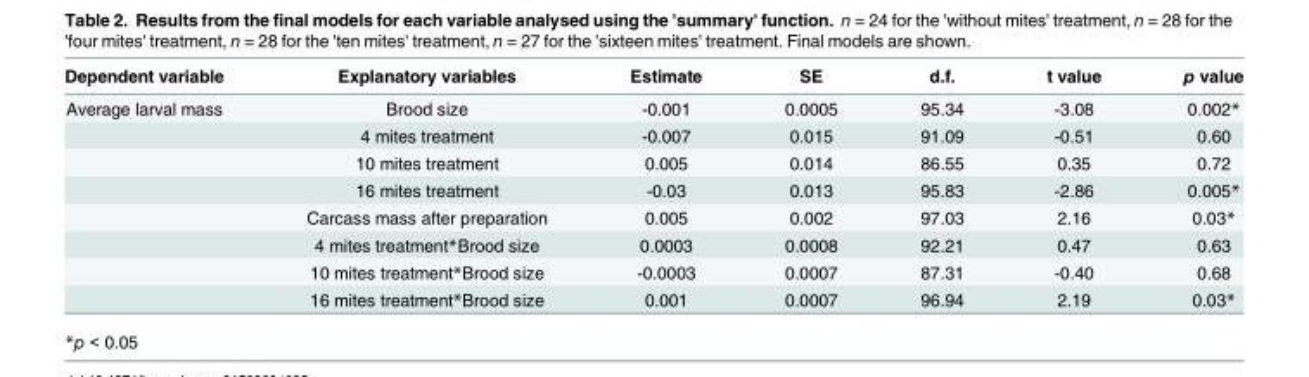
<table><thead><tr><td>Dependent variable</td><td>Explanatory variables</td><td>Estimate</td><td>SE</td><td>d.f.</td><td>t value</td><td>p value</td></tr></thead><tbody><tr><td rowspan="8">Average larval mass</td><td>Brood size</td><td>-0.001</td><td>0.0005</td><td>95.34</td><td>-3.08</td><td>0.002*</td></tr><tr><td>4 mites treatment</td><td>-0.007</td><td>0.015</td><td>91.09</td><td>-0.51</td><td>0.60</td></tr><tr><td>10 mites treatment</td><td>0.005</td><td>0.014</td><td>86.55</td><td>0.35</td><td>0.72</td></tr><tr><td>16 mites treatment</td><td>-0.03</td><td>0.013</td><td>95.83</td><td>-2.86</td><td>0.005*</td></tr><tr><td>Carcass mass after preparation</td><td>0.005</td><td>0.002</td><td>97.03</td><td>2.16</td><td>0.03*</td></tr><tr><td>4 mites treatment*Brood size</td><td>0.0003</td><td>0.0008</td><td>92.21</td><td>0.47</td><td>0.63</td></tr><tr><td>10 mites treatment*Brood size</td><td>-0.0003</td><td>0.0007</td><td>87.31</td><td>-0.40</td><td>0.68</td></tr><tr><td>16 mites treatment*Brood size</td><td>0.001</td><td>0.0007</td><td>96.94</td><td>2.19</td><td>0.03*</td></tr></tbody></table>